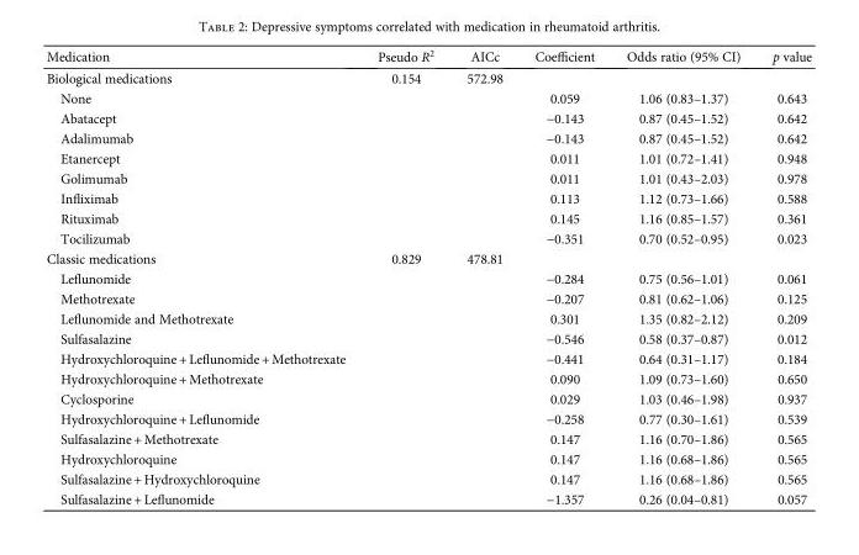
<table><thead><tr><td>Medication</td><td>Pseudo R<sup>2</sup></td><td>AICc</td><td>Coefficient</td><td>Odds ratio (95% CI)</td><td>p value</td></tr></thead><tbody><tr><td>Biological medications</td><td>0.154</td><td>572.98</td><td></td><td></td><td></td></tr><tr><td>None</td><td></td><td></td><td>0.059</td><td>1.06 (0.83–1.37)</td><td>0.643</td></tr><tr><td>Abatacept</td><td></td><td></td><td>−0.143</td><td>0.87 (0.45–1.52)</td><td>0.642</td></tr><tr><td>Adalimumab</td><td></td><td></td><td>−0.143</td><td>0.87 (0.45–1.52)</td><td>0.642</td></tr><tr><td>Etanercept</td><td></td><td></td><td>0.011</td><td>1.01 (0.72–1.41)</td><td>0.948</td></tr><tr><td>Golimumab</td><td></td><td></td><td>0.011</td><td>1.01 (0.43–2.03)</td><td>0.978</td></tr><tr><td>Infliximab</td><td></td><td></td><td>0.113</td><td>1.12 (0.73–1.66)</td><td>0.588</td></tr><tr><td>Rituximab</td><td></td><td></td><td>0.145</td><td>1.16 (0.85–1.57)</td><td>0.361</td></tr><tr><td>Tocilizumab</td><td></td><td></td><td>−0.351</td><td>0.70 (0.52–0.95)</td><td>0.023</td></tr><tr><td>Classic medications</td><td>0.829</td><td>478.81</td><td></td><td></td><td></td></tr><tr><td>Leflunomide</td><td></td><td></td><td>−0.284</td><td>0.75 (0.56–1.01)</td><td>0.061</td></tr><tr><td>Methotrexate</td><td></td><td></td><td>−0.207</td><td>0.81 (0.62–1.06)</td><td>0.125</td></tr><tr><td>Leflunomide and Methotrexate</td><td></td><td></td><td>0.301</td><td>1.35 (0.82–2.12)</td><td>0.209</td></tr><tr><td>Sulfasalazine</td><td></td><td></td><td>−0.546</td><td>0.58 (0.37–0.87)</td><td>0.012</td></tr><tr><td>Hydroxychloroquine + Leflunomide + Methotrexate</td><td></td><td></td><td>−0.441</td><td>0.64 (0.31–1.17)</td><td>0.184</td></tr><tr><td>Hydroxychloroquine + Methotrexate</td><td></td><td></td><td>0.090</td><td>1.09 (0.73–1.60)</td><td>0.650</td></tr><tr><td>Cyclosporine</td><td></td><td></td><td>0.029</td><td>1.03 (0.46–1.98)</td><td>0.937</td></tr><tr><td>Hydroxychloroquine + Leflunomide</td><td></td><td></td><td>−0.258</td><td>0.77 (0.30–1.61)</td><td>0.539</td></tr><tr><td>Sulfasalazine + Methotrexate</td><td></td><td></td><td>0.147</td><td>1.16 (0.70–1.86)</td><td>0.565</td></tr><tr><td>Hydroxychloroquine</td><td></td><td></td><td>0.147</td><td>1.16 (0.68–1.86)</td><td>0.565</td></tr><tr><td>Sulfasalazine + Hydroxychloroquine</td><td></td><td></td><td>0.147</td><td>1.16 (0.68–1.86)</td><td>0.565</td></tr><tr><td>Sulfasalazine + Leflunomide</td><td></td><td></td><td>−1.357</td><td>0.26 (0.04–0.81)</td><td>0.057</td></tr></tbody></table>